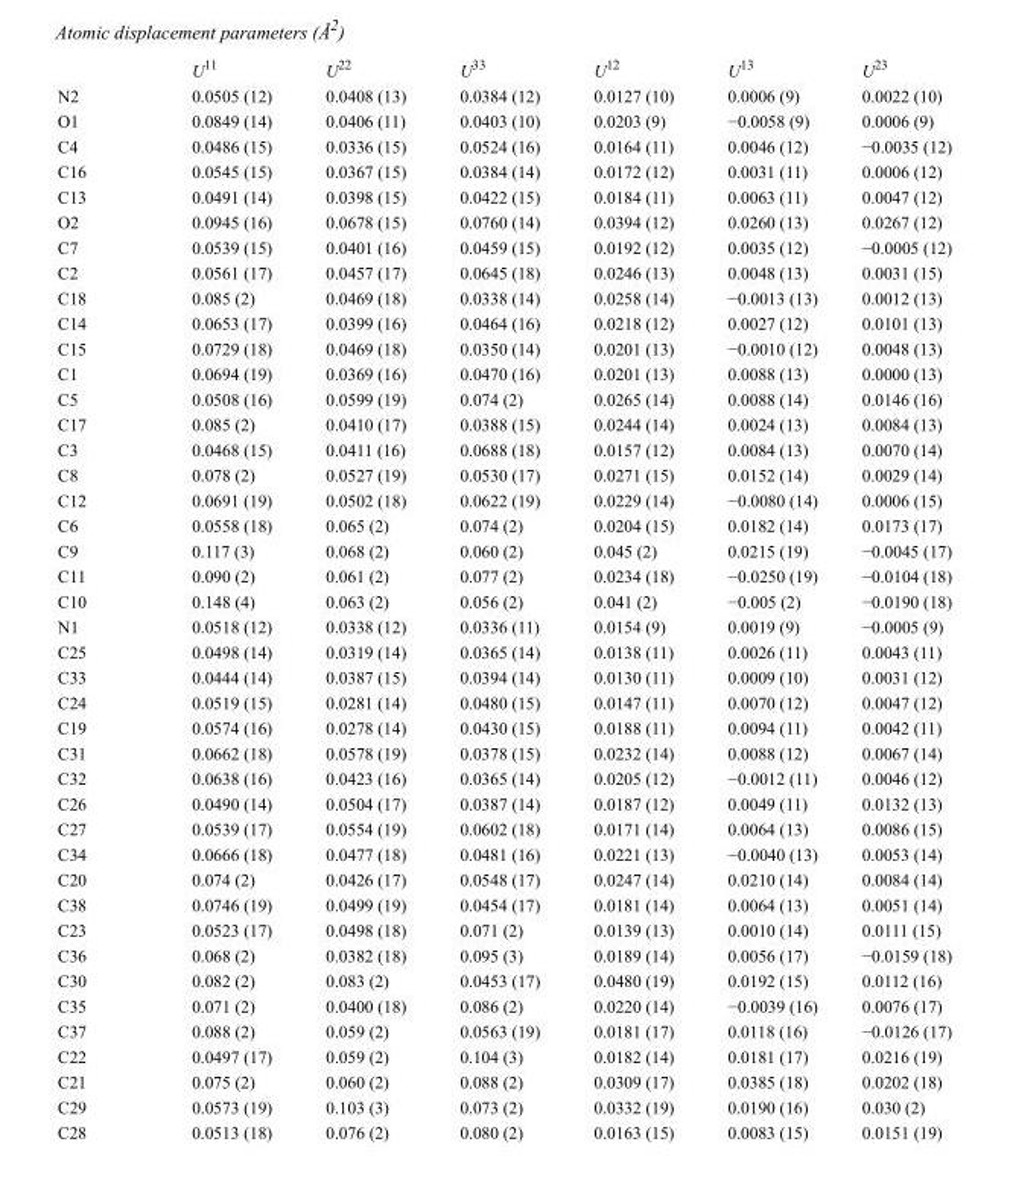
<table><thead><tr><td></td><td>U<sup>11</sup></td><td>U<sup>22</sup></td><td>U<sup>33</sup></td><td>U<sup>12</sup></td><td>U<sup>13</sup></td><td>U<sup>23</sup></td></tr></thead><tbody><tr><td>N2</td><td>0.0505 (12)</td><td>0.0408 (13)</td><td>0.0384 (12)</td><td>0.0127 (10)</td><td>0.0006 (9)</td><td>0.0022 (10)</td></tr><tr><td>O1</td><td>0.0849 (14)</td><td>0.0406 (11)</td><td>0.0403 (10)</td><td>0.0203 (9)</td><td>−0.0058 (9)</td><td>0.0006 (9)</td></tr><tr><td>C4</td><td>0.0486 (15)</td><td>0.0336 (15)</td><td>0.0524 (16)</td><td>0.0164 (11)</td><td>0.0046 (12)</td><td>−0.0035 (12)</td></tr><tr><td>C16</td><td>0.0545 (15)</td><td>0.0367 (15)</td><td>0.0384 (14)</td><td>0.0172 (12)</td><td>0.0031 (11)</td><td>0.0006 (12)</td></tr><tr><td>C13</td><td>0.0491 (14)</td><td>0.0398 (15)</td><td>0.0422 (15)</td><td>0.0184 (11)</td><td>0.0063 (11)</td><td>0.0047 (12)</td></tr><tr><td>O2</td><td>0.0945 (16)</td><td>0.0678 (15)</td><td>0.0760 (14)</td><td>0.0394 (12)</td><td>0.0260 (13)</td><td>0.0267 (12)</td></tr><tr><td>C7</td><td>0.0539 (15)</td><td>0.0401 (16)</td><td>0.0459 (15)</td><td>0.0192 (12)</td><td>0.0035 (12)</td><td>−0.0005 (12)</td></tr><tr><td>C2</td><td>0.0561 (17)</td><td>0.0457 (17)</td><td>0.0645 (18)</td><td>0.0246 (13)</td><td>0.0048 (13)</td><td>0.0031 (15)</td></tr><tr><td>C18</td><td>0.085 (2)</td><td>0.0469 (18)</td><td>0.0338 (14)</td><td>0.0258 (14)</td><td>−0.0013 (13)</td><td>0.0012 (13)</td></tr><tr><td>C14</td><td>0.0653 (17)</td><td>0.0399 (16)</td><td>0.0464 (16)</td><td>0.0218 (12)</td><td>0.0027 (12)</td><td>0.0101 (13)</td></tr><tr><td>C15</td><td>0.0729 (18)</td><td>0.0469 (18)</td><td>0.0350 (14)</td><td>0.0201 (13)</td><td>−0.0010 (12)</td><td>0.0048 (13)</td></tr><tr><td>C1</td><td>0.0694 (19)</td><td>0.0369 (16)</td><td>0.0470 (16)</td><td>0.0201 (13)</td><td>0.0088 (13)</td><td>0.0000 (13)</td></tr><tr><td>C5</td><td>0.0508 (16)</td><td>0.0599 (19)</td><td>0.074 (2)</td><td>0.0265 (14)</td><td>0.0088 (14)</td><td>0.0146 (16)</td></tr><tr><td>C17</td><td>0.085 (2)</td><td>0.0410 (17)</td><td>0.0388 (15)</td><td>0.0244 (14)</td><td>0.0024 (13)</td><td>0.0084 (13)</td></tr><tr><td>C3</td><td>0.0468 (15)</td><td>0.0411 (16)</td><td>0.0688 (18)</td><td>0.0157 (12)</td><td>0.0084 (13)</td><td>0.0070 (14)</td></tr><tr><td>C8</td><td>0.078 (2)</td><td>0.0527 (19)</td><td>0.0530 (17)</td><td>0.0271 (15)</td><td>0.0152 (14)</td><td>0.0029 (14)</td></tr><tr><td>C12</td><td>0.0691 (19)</td><td>0.0502 (18)</td><td>0.0622 (19)</td><td>0.0229 (14)</td><td>−0.0080 (14)</td><td>0.0006 (15)</td></tr><tr><td>C6</td><td>0.0558 (18)</td><td>0.065 (2)</td><td>0.074 (2)</td><td>0.0204 (15)</td><td>0.0182 (14)</td><td>0.0173 (17)</td></tr><tr><td>C9</td><td>0.117 (3)</td><td>0.068 (2)</td><td>0.060 (2)</td><td>0.045 (2)</td><td>0.0215 (19)</td><td>−0.0045 (17)</td></tr><tr><td>C11</td><td>0.090 (2)</td><td>0.061 (2)</td><td>0.077 (2)</td><td>0.0234 (18)</td><td>−0.0250 (19)</td><td>−0.0104 (18)</td></tr><tr><td>C10</td><td>0.148 (4)</td><td>0.063 (2)</td><td>0.056 (2)</td><td>0.041 (2)</td><td>−0.005 (2)</td><td>−0.0190 (18)</td></tr><tr><td>N1</td><td>0.0518 (12)</td><td>0.0338 (12)</td><td>0.0336 (11)</td><td>0.0154 (9)</td><td>0.0019 (9)</td><td>−0.0005 (9)</td></tr><tr><td>C25</td><td>0.0498 (14)</td><td>0.0319 (14)</td><td>0.0365 (14)</td><td>0.0138 (11)</td><td>0.0026 (11)</td><td>0.0043 (11)</td></tr><tr><td>C33</td><td>0.0444 (14)</td><td>0.0387 (15)</td><td>0.0394 (14)</td><td>0.0130 (11)</td><td>0.0009 (10)</td><td>0.0031 (12)</td></tr><tr><td>C24</td><td>0.0519 (15)</td><td>0.0281 (14)</td><td>0.0480 (15)</td><td>0.0147 (11)</td><td>0.0070 (12)</td><td>0.0047 (12)</td></tr><tr><td>C19</td><td>0.0574 (16)</td><td>0.0278 (14)</td><td>0.0430 (15)</td><td>0.0188 (11)</td><td>0.0094 (11)</td><td>0.0042 (11)</td></tr><tr><td>C31</td><td>0.0662 (18)</td><td>0.0578 (19)</td><td>0.0378 (15)</td><td>0.0232 (14)</td><td>0.0088 (12)</td><td>0.0067 (14)</td></tr><tr><td>C32</td><td>0.0638 (16)</td><td>0.0423 (16)</td><td>0.0365 (14)</td><td>0.0205 (12)</td><td>−0.0012 (11)</td><td>0.0046 (12)</td></tr><tr><td>C26</td><td>0.0490 (14)</td><td>0.0504 (17)</td><td>0.0387 (14)</td><td>0.0187 (12)</td><td>0.0049 (11)</td><td>0.0132 (13)</td></tr><tr><td>C27</td><td>0.0539 (17)</td><td>0.0554 (19)</td><td>0.0602 (18)</td><td>0.0171 (14)</td><td>0.0064 (13)</td><td>0.0086 (15)</td></tr><tr><td>C34</td><td>0.0666 (18)</td><td>0.0477 (18)</td><td>0.0481 (16)</td><td>0.0221 (13)</td><td>−0.0040 (13)</td><td>0.0053 (14)</td></tr><tr><td>C20</td><td>0.074 (2)</td><td>0.0426 (17)</td><td>0.0548 (17)</td><td>0.0247 (14)</td><td>0.0210 (14)</td><td>0.0084 (14)</td></tr><tr><td>C38</td><td>0.0746 (19)</td><td>0.0499 (19)</td><td>0.0454 (17)</td><td>0.0181 (14)</td><td>0.0064 (13)</td><td>0.0051 (14)</td></tr><tr><td>C23</td><td>0.0523 (17)</td><td>0.0498 (18)</td><td>0.071 (2)</td><td>0.0139 (13)</td><td>0.0010 (14)</td><td>0.0111 (15)</td></tr><tr><td>C36</td><td>0.068 (2)</td><td>0.0382 (18)</td><td>0.095 (3)</td><td>0.0189 (14)</td><td>0.0056 (17)</td><td>−0.0159 (18)</td></tr><tr><td>C30</td><td>0.082 (2)</td><td>0.083 (2)</td><td>0.0453 (17)</td><td>0.0480 (19)</td><td>0.0192 (15)</td><td>0.0112 (16)</td></tr><tr><td>C35</td><td>0.071 (2)</td><td>0.0400 (18)</td><td>0.086 (2)</td><td>0.0220 (14)</td><td>−0.0039 (16)</td><td>0.0076 (17)</td></tr><tr><td>C37</td><td>0.088 (2)</td><td>0.059 (2)</td><td>0.0563 (19)</td><td>0.0181 (17)</td><td>0.0118 (16)</td><td>−0.0126 (17)</td></tr><tr><td>C22</td><td>0.0497 (17)</td><td>0.059 (2)</td><td>0.104 (3)</td><td>0.0182 (14)</td><td>0.0181 (17)</td><td>0.0216 (19)</td></tr><tr><td>C21</td><td>0.075 (2)</td><td>0.060 (2)</td><td>0.088 (2)</td><td>0.0309 (17)</td><td>0.0385 (18)</td><td>0.0202 (18)</td></tr><tr><td>C29</td><td>0.0573 (19)</td><td>0.103 (3)</td><td>0.073 (2)</td><td>0.0332 (19)</td><td>0.0190 (16)</td><td>0.030 (2)</td></tr><tr><td>C28</td><td>0.0513 (18)</td><td>0.076 (2)</td><td>0.080 (2)</td><td>0.0163 (15)</td><td>0.0083 (15)</td><td>0.0151 (19)</td></tr></tbody></table>